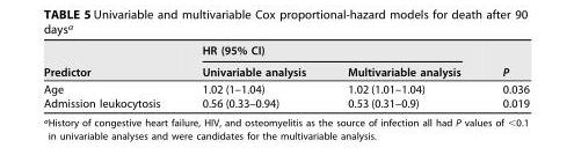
<table><thead><tr><td rowspan="2">Predictor</td><td colspan="2">HR (95% CI)</td><td rowspan="2">P</td></tr><tr><td>Univariable analysis</td><td>Multivariable analysis</td></tr></thead><tbody><tr><td>Age</td><td>1.02 (1–1.04)</td><td>1.02 (1.01–1.04)</td><td>0.036</td></tr><tr><td>Admission leukocytosis</td><td>0.56 (0.33–0.94)</td><td>0.53 (0.31–0.9)</td><td>0.019</td></tr></tbody></table>